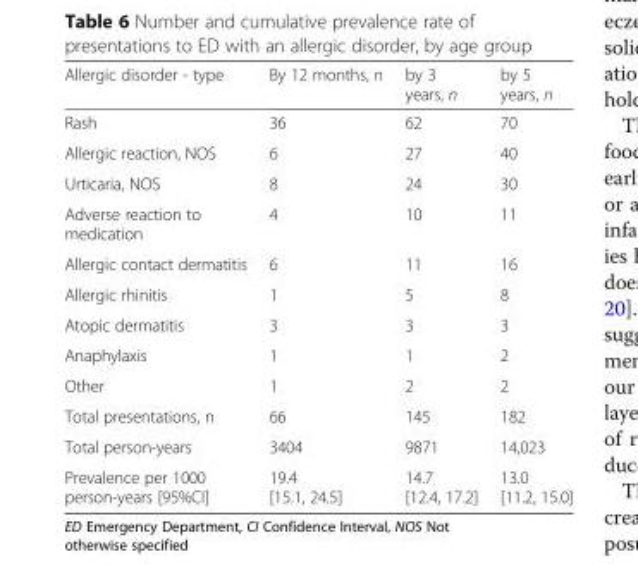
<table><thead><tr><td>Allergic disorder - type</td><td>By 12 months, n</td><td>by 3 years, n</td><td>by 5 years, n</td></tr></thead><tbody><tr><td>Rash</td><td>36</td><td>62</td><td>70</td></tr><tr><td>Allergic reaction, NOS</td><td>6</td><td>27</td><td>40</td></tr><tr><td>Urticaria, NOS</td><td>8</td><td>24</td><td>30</td></tr><tr><td>Adverse reaction to medication</td><td>4</td><td>10</td><td>11</td></tr><tr><td>Allergic contact dermatitis</td><td>6</td><td>11</td><td>16</td></tr><tr><td>Allergic rhinitis</td><td>1</td><td>5</td><td>8</td></tr><tr><td>Atopic dermatitis</td><td>3</td><td>3</td><td>3</td></tr><tr><td>Anaphylaxis</td><td>1</td><td>1</td><td>2</td></tr><tr><td>Other</td><td>1</td><td>2</td><td>2</td></tr><tr><td>Total presentations, n</td><td>66</td><td>145</td><td>182</td></tr><tr><td>Total person-years</td><td>3404</td><td>9871</td><td>14,023</td></tr><tr><td>Prevalence per 1000 person-years [95%CI]</td><td>19.4 [15.1, 24.5]</td><td>14.7 [12.4, 17.2]</td><td>13.0 [11.2, 15.0]</td></tr></tbody></table>